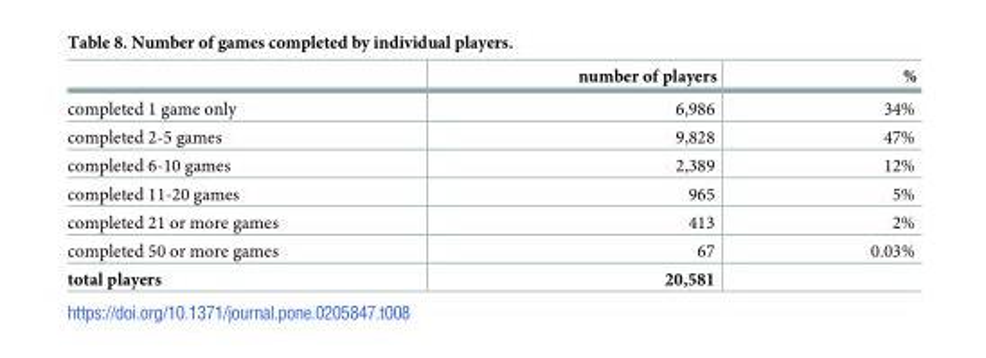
<table><thead><tr><td></td><td>number of players</td><td>%</td></tr></thead><tbody><tr><td>completed 1 game only</td><td>6,986</td><td>34%</td></tr><tr><td>completed 2-5 games</td><td>9,828</td><td>47%</td></tr><tr><td>completed 6-10 games</td><td>2,389</td><td>12%</td></tr><tr><td>completed 11-20 games</td><td>965</td><td>5%</td></tr><tr><td>completed 21 or more games</td><td>413</td><td>2%</td></tr><tr><td>completed 50 or more games</td><td>67</td><td>0.03%</td></tr><tr><td>total players</td><td>20,581</td><td></td></tr></tbody></table>